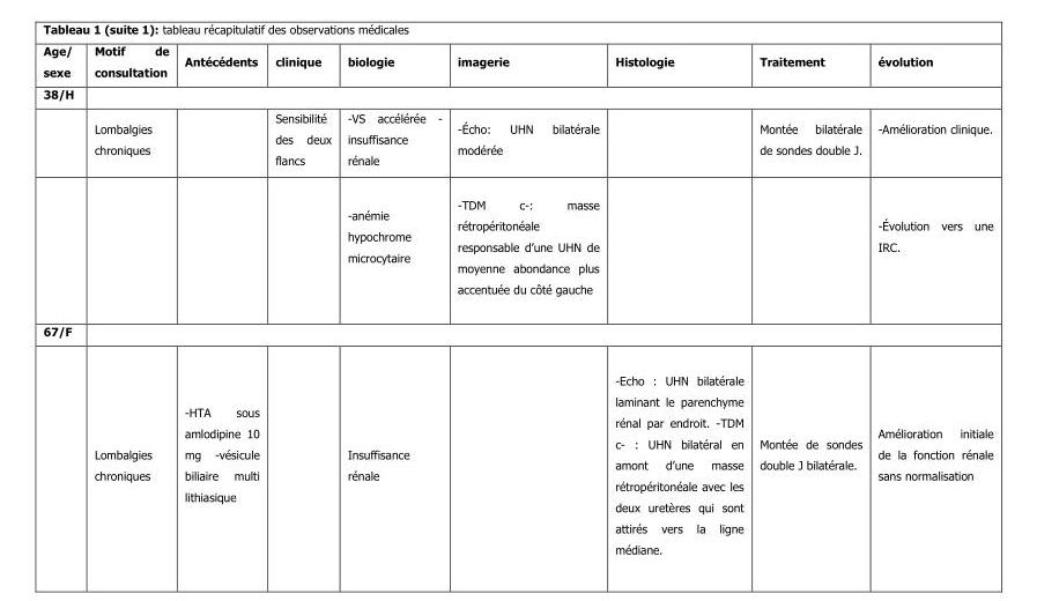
<table><thead><tr><td>Age/ sexe</td><td>Motif de consultation</td><td>Antécédents</td><td>clinique</td><td>biologie</td><td>imagerie</td><td>Histologie</td><td>Traitement</td><td>évolution</td></tr></thead><tbody><tr><td colspan="9">38/H</td></tr><tr><td></td><td>Lombalgies chroniques</td><td></td><td>Sensibilité des deux flancs</td><td>-VS accélérée - insuffisance rénale</td><td>-Écho: UHN bilatérale modérée</td><td></td><td>Montée bilatérale de sondes double J.</td><td>-Amélioration clinique.</td></tr><tr><td></td><td></td><td></td><td></td><td>-anémie hypochrome microcytaire</td><td>-TDM c-: masse rétropéritonéale responsable d’une UHN de moyenne abondance plus accentuée du côté gauche</td><td></td><td></td><td>-Évolution vers une IRC.</td></tr><tr><td colspan="9">67/F</td></tr><tr><td></td><td>Lombalgies chroniques</td><td>-HTA sous amlodipine 10 mg -vésicule biliaire multi lithiasique</td><td></td><td>Insuffisance rénale</td><td></td><td>-Echo : UHN bilatérale laminant le parenchyme rénal par endroit. -TDM c- : UHN bilatéral en amont d’une masse rétropéritonéale avec les deux uretères qui sont attirés vers la ligne médiane.</td><td>Montée de sondes double J bilatérale.</td><td>Amélioration initiale de la fonction rénale sans normalisation</td></tr></tbody></table>